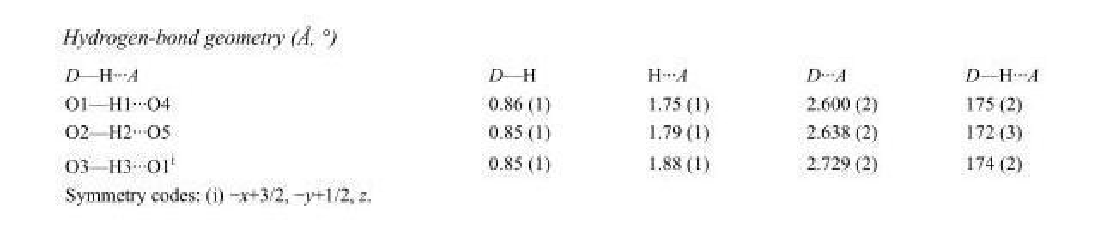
<table><tbody><tr><td>D—H···A</td><td>D—H</td><td>H···A</td><td>D···A</td><td>D—H···A</td></tr><tr><td>O1—H1···O4</td><td>0.86 (1)</td><td>1.75 (1)</td><td>2.600 (2)</td><td>175 (2)</td></tr><tr><td>O2—H2···O5</td><td>0.85 (1)</td><td>1.79 (1)</td><td>2.638 (2)</td><td>172 (3)</td></tr><tr><td>O3—H3···O1<sup>i</sup></td><td>0.85 (1)</td><td>1.88 (1)</td><td>2.729 (2)</td><td>174 (2)</td></tr></tbody></table>